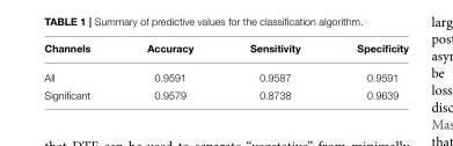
<table><thead><tr><td>Channels</td><td>Accuracy</td><td>Sensitivity</td><td>Specificity</td></tr></thead><tbody><tr><td>All</td><td>0.9591</td><td>0.9587</td><td>0.9591</td></tr><tr><td>Significant</td><td>0.9579</td><td>0.8738</td><td>0.9639</td></tr></tbody></table>